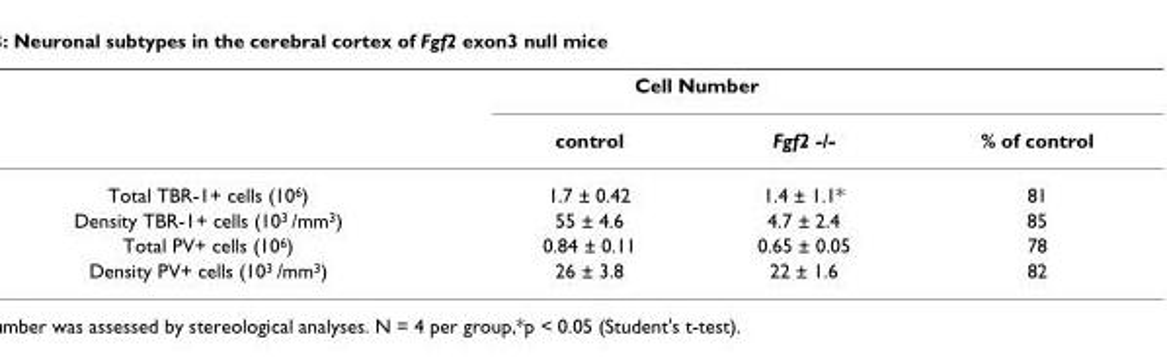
<table><thead><tr><td rowspan="2"></td><td colspan="2">Cell Number</td><td rowspan="2">% of control</td></tr><tr><td>control</td><td>Fgf2 -/-</td></tr></thead><tbody><tr><td>Total TBR-1+ cells (10<sup>6</sup>)</td><td>1.7 ± 0.42</td><td>1.4 ± 1.1*</td><td>81</td></tr><tr><td>Density TBR-1+ cells (10<sup>3</sup> /mm<sup>3</sup>)</td><td>55 ± 4.6</td><td>4.7 ± 2.4</td><td>85</td></tr><tr><td>Total PV+ cells (10<sup>6</sup>)</td><td>0.84 ± 0.11</td><td>0.65 ± 0.05</td><td>78</td></tr><tr><td>Density PV+ cells (10<sup>3</sup> /mm<sup>3</sup>)</td><td>26 ± 3.8</td><td>22 ± 1.6</td><td>82</td></tr></tbody></table>